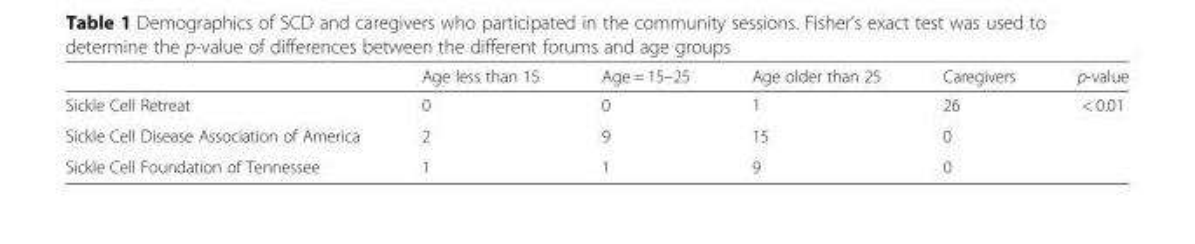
<table><thead><tr><td></td><td>Age less than 15</td><td>Age = 15–25</td><td>Age older than 25</td><td>Caregivers</td><td>p-value</td></tr></thead><tbody><tr><td>Sickle Cell Retreat</td><td>0</td><td>0</td><td>1</td><td>26</td><td rowspan="3">&lt; 0.01</td></tr><tr><td>Sickle Cell Disease Association of America</td><td>2</td><td>9</td><td>15</td><td>0</td></tr><tr><td>Sickle Cell Foundation of Tennessee</td><td>1</td><td>1</td><td>9</td><td>0</td></tr></tbody></table>